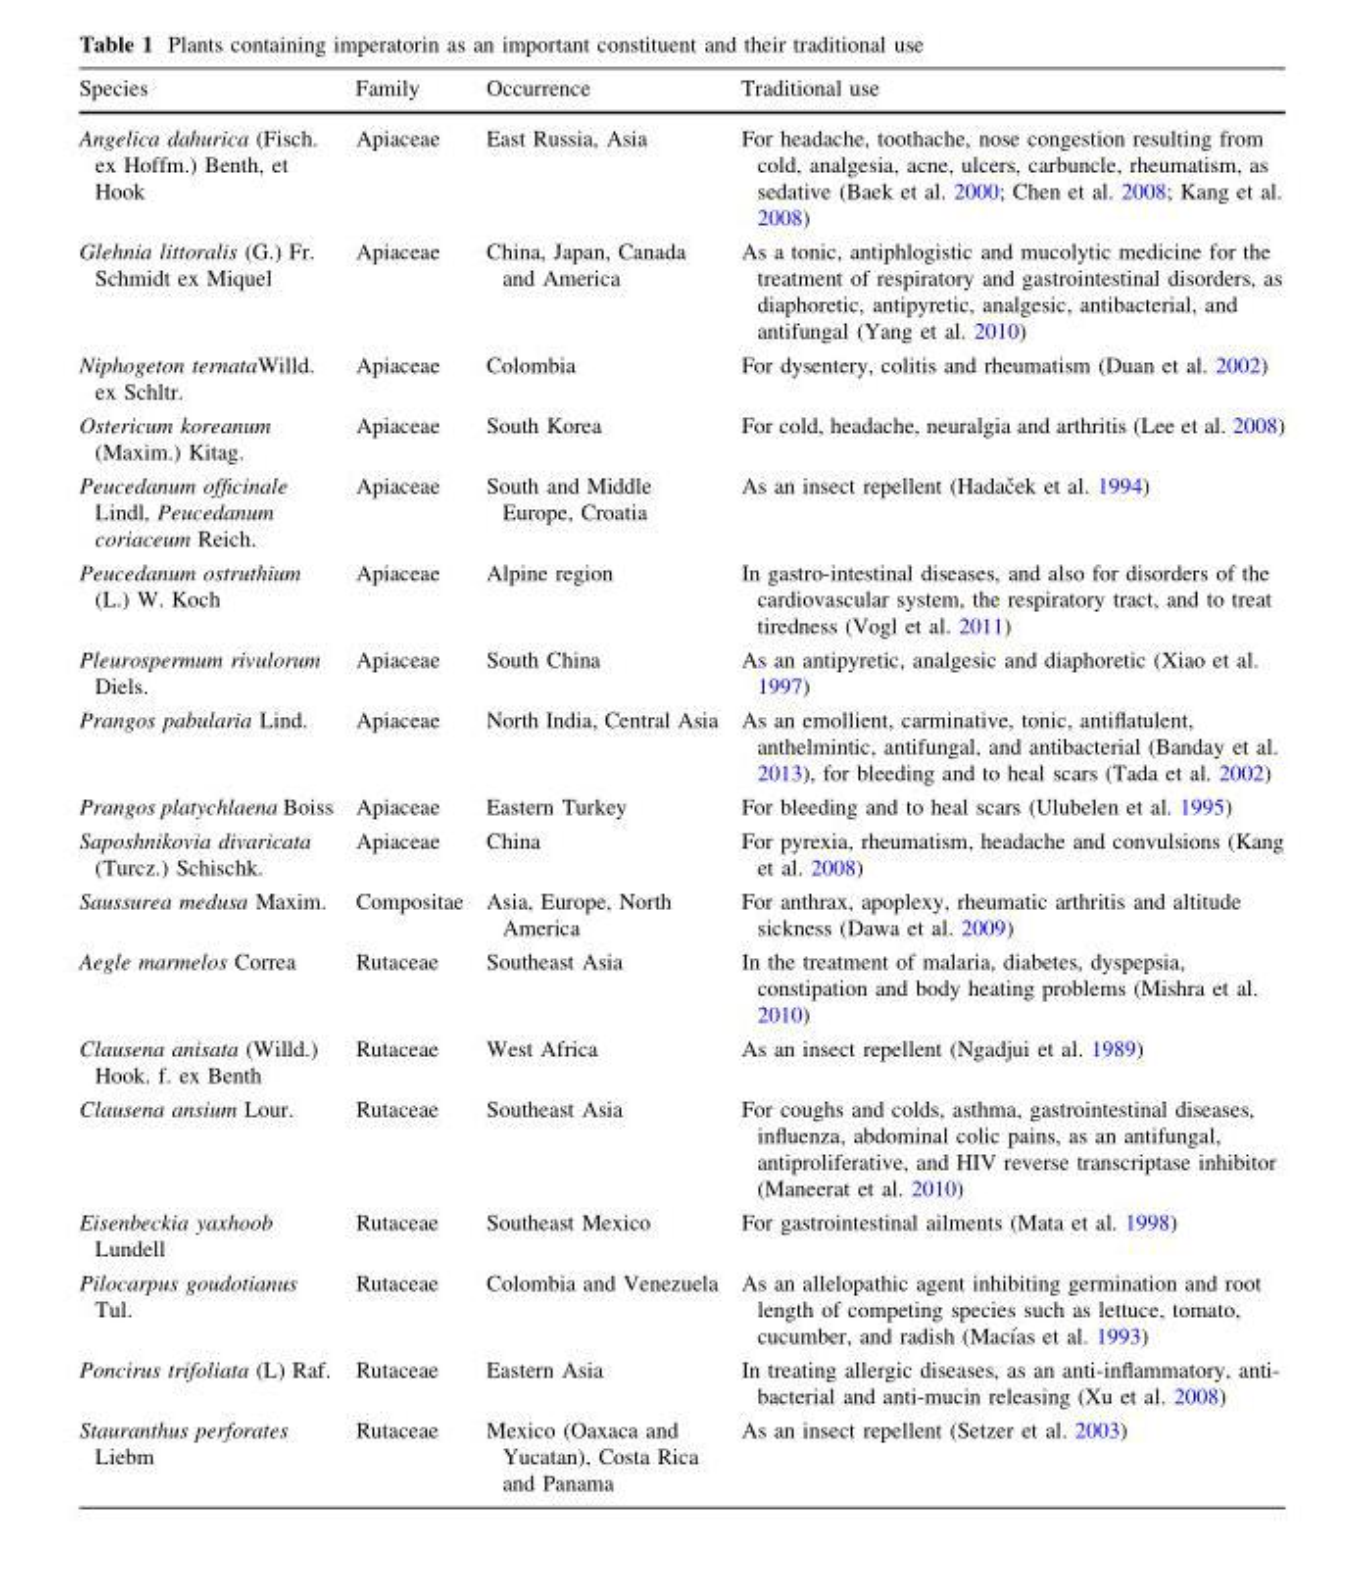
<table><thead><tr><td>Species</td><td>Family</td><td>Occurrence</td><td>Traditional use</td></tr></thead><tbody><tr><td>Angelica dahurica (Fisch. ex Hoffm.) Benth, et Hook</td><td>Apiaceae</td><td>East Russia, Asia</td><td>For headache, toothache, nose congestion resulting from cold, analgesia, acne, ulcers, carbuncle, rheumatism, as sedative (Baek et al. 2000; Chen et al. 2008; Kang et al. 2008)</td></tr><tr><td>Glehnia littoralis (G.) Fr. Schmidt ex Miquel</td><td>Apiaceae</td><td>China, Japan, Canada and America</td><td>As a tonic, antiphlogistic and mucolytic medicine for the treatment of respiratory and gastrointestinal disorders, as diaphoretic, antipyretic, analgesic, antibacterial, and antifungal (Yang et al. 2010)</td></tr><tr><td>Niphogeton ternataWilld. ex Schltr.</td><td>Apiaceae</td><td>Colombia</td><td>For dysentery, colitis and rheumatism (Duan et al. 2002)</td></tr><tr><td>Ostericum koreanum (Maxim.) Kitag.</td><td>Apiaceae</td><td>South Korea</td><td>For cold, headache, neuralgia and arthritis (Lee et al. 2008)</td></tr><tr><td>Peucedanum officinale Lindl, Peucedanum coriaceum Reich.</td><td>Apiaceae</td><td>South and Middle Europe, Croatia</td><td>As an insect repellent (Hadacˇek et al. 1994)</td></tr><tr><td>Peucedanum ostruthium (L.) W. Koch</td><td>Apiaceae</td><td>Alpine region</td><td>In gastro-intestinal diseases, and also for disorders of the cardiovascular system, the respiratory tract, and to treat tiredness (Vogl et al. 2011)</td></tr><tr><td>Pleurospermum rivulorum Diels.</td><td>Apiaceae</td><td>South China</td><td>As an antipyretic, analgesic and diaphoretic (Xiao et al. 1997)</td></tr><tr><td>Prangos pabularia Lind.</td><td>Apiaceae</td><td>North India, Central Asia</td><td>As an emollient, carminative, tonic, antiflatulent, anthelmintic, antifungal, and antibacterial (Banday et al. 2013), for bleeding and to heal scars (Tada et al. 2002)</td></tr><tr><td>Prangos platychlaena Boiss</td><td>Apiaceae</td><td>Eastern Turkey</td><td>For bleeding and to heal scars (Ulubelen et al. 1995)</td></tr><tr><td>Saposhnikovia divaricata (Turcz.) Schischk.</td><td>Apiaceae</td><td>China</td><td>For pyrexia, rheumatism, headache and convulsions (Kang et al. 2008)</td></tr><tr><td>Saussurea medusa Maxim.</td><td>Compositae</td><td>Asia, Europe, North America</td><td>For anthrax, apoplexy, rheumatic arthritis and altitude sickness (Dawa et al. 2009)</td></tr><tr><td>Aegle marmelos Correa</td><td>Rutaceae</td><td>Southeast Asia</td><td>In the treatment of malaria, diabetes, dyspepsia, constipation and body heating problems (Mishra et al. 2010)</td></tr><tr><td>Clausena anisata (Willd.) Hook. f. ex Benth</td><td>Rutaceae</td><td>West Africa</td><td>As an insect repellent (Ngadjui et al. 1989)</td></tr><tr><td>Clausena ansium Lour.</td><td>Rutaceae</td><td>Southeast Asia</td><td>For coughs and colds, asthma, gastrointestinal diseases, influenza, abdominal colic pains, as an antifungal, antiproliferative, and HIV reverse transcriptase inhibitor (Maneerat et al. 2010)</td></tr><tr><td>Eisenbeckia yaxhoob Lundell</td><td>Rutaceae</td><td>Southeast Mexico</td><td>For gastrointestinal ailments (Mata et al. 1998)</td></tr><tr><td>Pilocarpus goudotianus Tul.</td><td>Rutaceae</td><td>Colombia and Venezuela</td><td>As an allelopathic agent inhibiting germination and root length of competing species such as lettuce, tomato, cucumber, and radish (Macı´as et al. 1993)</td></tr><tr><td>Poncirus trifoliata (L) Raf.</td><td>Rutaceae</td><td>Eastern Asia</td><td>In treating allergic diseases, as an anti-inflammatory, anti- bacterial and anti-mucin releasing (Xu et al. 2008)</td></tr><tr><td>Stauranthus perforates Liebm</td><td>Rutaceae</td><td>Mexico (Oaxaca and Yucatan), Costa Rica and Panama</td><td>As an insect repellent (Setzer et al. 2003)</td></tr></tbody></table>